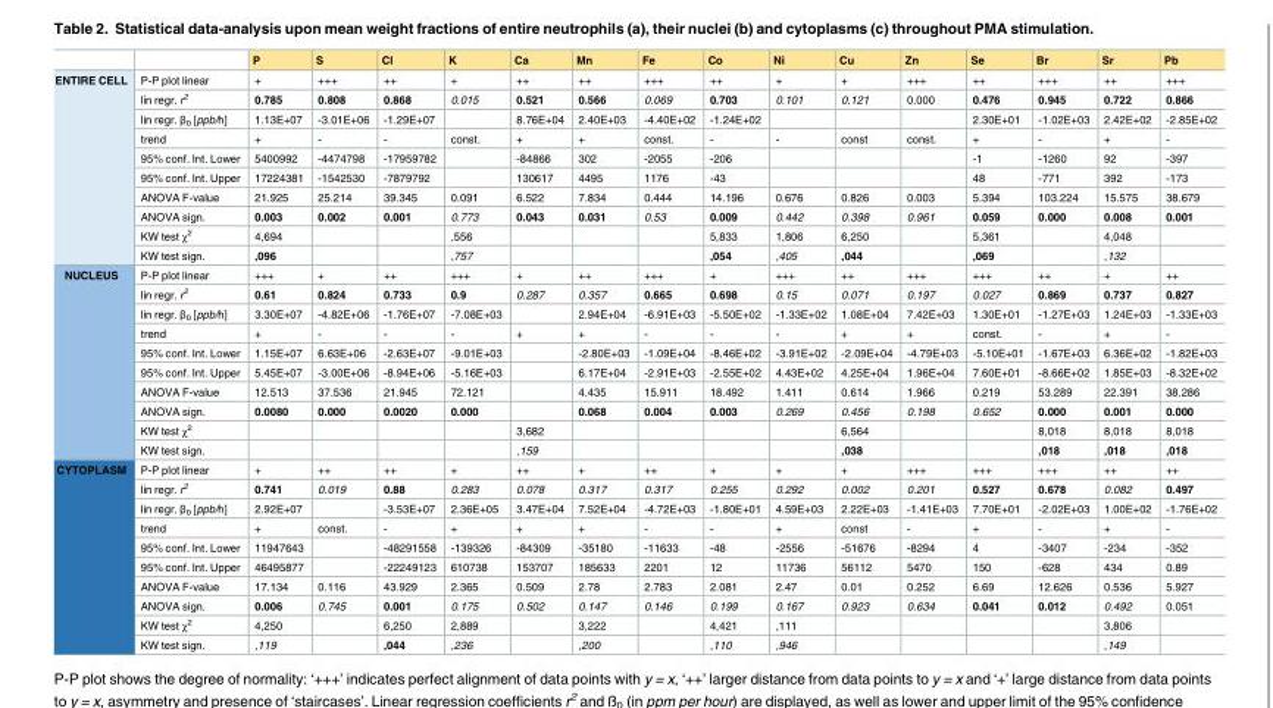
<table><thead><tr><td></td><td></td><td>P</td><td>S</td><td>Cl</td><td>K</td><td>Ca</td><td>Mn</td><td>Fe</td><td>Co</td><td>Ni</td><td>Cu</td><td>Zn</td><td>Se</td><td>Br</td><td>Sr</td><td>Pb</td></tr></thead><tbody><tr><td rowspan="10">ENTIRE CELL</td><td>P-P plot linear</td><td>+</td><td>+++</td><td>++</td><td>+</td><td>++</td><td>++</td><td>+++</td><td>++</td><td>+</td><td>+</td><td>+++</td><td>++</td><td>+++</td><td>++</td><td>+++</td></tr><tr><td>lin regr. r<sup>2</sup></td><td>0.785</td><td>0.808</td><td>0.868</td><td>0.015</td><td>0.521</td><td>0.566</td><td>0.069</td><td>0.703</td><td>0.101</td><td>0.121</td><td>0.000</td><td>0.476</td><td>0.945</td><td>0.722</td><td>0.866</td></tr><tr><td>lin regr. β<sub>0</sub> [ppb/h]</td><td>1.13E+07</td><td>-3.01E+06</td><td>-1.29E+07</td><td></td><td>8.76E+04</td><td>2.40E+03</td><td>-4.40E+02</td><td>-1.24E+02</td><td></td><td></td><td></td><td>2.30E+01</td><td>-1.02E+03</td><td>2.42E+02</td><td>-2.85E+02</td></tr><tr><td>trend</td><td>+</td><td>-</td><td>-</td><td>const.</td><td>+</td><td>+</td><td>const.</td><td>-</td><td>-</td><td>const</td><td>const.</td><td>+</td><td>-</td><td>+</td><td>-</td></tr><tr><td>95% conf. Int. Lower</td><td>5400992</td><td>-4474798</td><td>-17959782</td><td></td><td>-84866</td><td>302</td><td>-2055</td><td>-206</td><td></td><td></td><td></td><td>-1</td><td>-1260</td><td>92</td><td>-397</td></tr><tr><td>95% conf. Int. Upper</td><td>17224381</td><td>-1542530</td><td>-7879792</td><td></td><td>130617</td><td>4495</td><td>1176</td><td>-43</td><td></td><td></td><td></td><td>48</td><td>-771</td><td>392</td><td>-173</td></tr><tr><td>ANOVA F-value</td><td>21.925</td><td>25.214</td><td>39.345</td><td>0.091</td><td>6.522</td><td>7.834</td><td>0.444</td><td>14.196</td><td>0.676</td><td>0.826</td><td>0.003</td><td>5.394</td><td>103.224</td><td>15.575</td><td>38.679</td></tr><tr><td>ANOVA sign.</td><td>0.003</td><td>0.002</td><td>0.001</td><td>0.773</td><td>0.043</td><td>0.031</td><td>0.53</td><td>0.009</td><td>0.442</td><td>0.398</td><td>0.961</td><td>0.059</td><td>0.000</td><td>0.008</td><td>0.001</td></tr><tr><td>KW test χ<sup>2</sup></td><td>4,694</td><td></td><td></td><td>,556</td><td></td><td></td><td></td><td>5,833</td><td>1,806</td><td>6,250</td><td></td><td>5,361</td><td></td><td>4,048</td><td></td></tr><tr><td>KW test sign.</td><td>,096</td><td></td><td></td><td>,757</td><td></td><td></td><td></td><td>,054</td><td>,405</td><td>,044</td><td></td><td>,069</td><td></td><td>,132</td><td></td></tr><tr><td rowspan="10">NUCLEUS</td><td>P-P plot linear</td><td>+++</td><td>+</td><td>++</td><td>+++</td><td>+</td><td>++</td><td>+++</td><td>+</td><td>+++</td><td>++</td><td>+++</td><td>+++</td><td>++</td><td>+</td><td>++</td></tr><tr><td>lin regr. r<sup>2</sup></td><td>0.61</td><td>0.824</td><td>0.733</td><td>0.9</td><td>0.287</td><td>0.357</td><td>0.665</td><td>0.698</td><td>0.15</td><td>0.071</td><td>0.197</td><td>0.027</td><td>0.869</td><td>0.737</td><td>0.827</td></tr><tr><td>lin regr. β<sub>0</sub> [ppb/h]</td><td>3.30E+07</td><td>-4.82E+06</td><td>-1.76E+07</td><td>-7.08E+03</td><td></td><td>2.94E+04</td><td>-6.91E+03</td><td>-5.50E+02</td><td>-1.33E+02</td><td>1.08E+04</td><td>7.42E+03</td><td>1.30E+01</td><td>-1.27E+03</td><td>1.24E+03</td><td>-1.33E+03</td></tr><tr><td>trend</td><td>+</td><td>-</td><td>-</td><td>-</td><td>+</td><td>+</td><td>-</td><td>-</td><td>-</td><td>+</td><td>+</td><td>const.</td><td>-</td><td>+</td><td>-</td></tr><tr><td>95% conf. Int. Lower</td><td>1.15E+07</td><td>6.63E+06</td><td>-2.63E+07</td><td>-9.01E+03</td><td></td><td>-2.80E+03</td><td>-1.09E+04</td><td>-8.46E+02</td><td>-3.91E+02</td><td>-2.09E+04</td><td>-4.79E+03</td><td>-5.10E+01</td><td>-1.67E+03</td><td>6.36E+02</td><td>-1.82E+03</td></tr><tr><td>95% conf. Int. Upper</td><td>5.45E+07</td><td>-3.00E+06</td><td>-8.94E+06</td><td>-5.16E+03</td><td></td><td>6.17E+04</td><td>-2.91E+03</td><td>-2.55E+02</td><td>4.43E+02</td><td>4.25E+04</td><td>1.96E+04</td><td>7.60E+01</td><td>-8.66E+02</td><td>1.85E+03</td><td>-8.32E+02</td></tr><tr><td>ANOVA F-value</td><td>12.513</td><td>37.536</td><td>21.945</td><td>72.121</td><td></td><td>4.435</td><td>15.911</td><td>18.492</td><td>1.411</td><td>0.614</td><td>1.966</td><td>0.219</td><td>53.289</td><td>22.391</td><td>38.286</td></tr><tr><td>ANOVA sign.</td><td>0.0080</td><td>0.000</td><td>0.0020</td><td>0.000</td><td></td><td>0.068</td><td>0.004</td><td>0.003</td><td>0.269</td><td>0.456</td><td>0.198</td><td>0.652</td><td>0.000</td><td>0.001</td><td>0.000</td></tr><tr><td>KW test χ<sup>2</sup></td><td></td><td></td><td></td><td></td><td>3,682</td><td></td><td></td><td></td><td></td><td>6,564</td><td></td><td></td><td>8,018</td><td>8,018</td><td>8,018</td></tr><tr><td>KW test sign.</td><td></td><td></td><td></td><td></td><td>,159</td><td></td><td></td><td></td><td></td><td>,038</td><td></td><td></td><td>,018</td><td>,018</td><td>,018</td></tr><tr><td rowspan="10">CYTOPLASM</td><td>P-P plot linear</td><td>+</td><td>++</td><td>++</td><td>+</td><td>++</td><td>+</td><td>++</td><td>+</td><td>+</td><td>+</td><td>+++</td><td>+++</td><td>+++</td><td>++</td><td>++</td></tr><tr><td>lin regr. r<sup>2</sup></td><td>0.741</td><td>0.019</td><td>0.88</td><td>0.283</td><td>0.078</td><td>0.317</td><td>0.317</td><td>0.255</td><td>0.292</td><td>0.002</td><td>0.201</td><td>0.527</td><td>0.678</td><td>0.082</td><td>0.497</td></tr><tr><td>lin regr. β<sub>0</sub> [ppb/h]</td><td>2.92E+07</td><td></td><td>-3.53E+07</td><td>2.36E+05</td><td>3.47E+04</td><td>7.52E+04</td><td>-4.72E+03</td><td>-1.80E+01</td><td>4.59E+03</td><td>2.22E+03</td><td>-1.41E+03</td><td>7.70E+01</td><td>-2.02E+03</td><td>1.00E+02</td><td>-1.76E+02</td></tr><tr><td>trend</td><td>+</td><td>const.</td><td>-</td><td>+</td><td>+</td><td>+</td><td>-</td><td>-</td><td>+</td><td>const</td><td>-</td><td>+</td><td>-</td><td>+</td><td>-</td></tr><tr><td>95% conf. Int. Lower</td><td>11947643</td><td></td><td>-48291558</td><td>-139326</td><td>-84309</td><td>-35180</td><td>-11633</td><td>-48</td><td>-2556</td><td>-51676</td><td>-8294</td><td>4</td><td>-3407</td><td>-234</td><td>-352</td></tr><tr><td>95% conf. Int. Upper</td><td>46495877</td><td></td><td>-22249123</td><td>610738</td><td>153707</td><td>185633</td><td>2201</td><td>12</td><td>11736</td><td>56112</td><td>5470</td><td>150</td><td>-628</td><td>434</td><td>0.89</td></tr><tr><td>ANOVA F-value</td><td>17.134</td><td>0.116</td><td>43.929</td><td>2.365</td><td>0.509</td><td>2.78</td><td>2.783</td><td>2.081</td><td>2.47</td><td>0.01</td><td>0.252</td><td>6.69</td><td>12.626</td><td>0.536</td><td>5.927</td></tr><tr><td>ANOVA sign.</td><td>0.006</td><td>0.745</td><td>0.001</td><td>0.175</td><td>0.502</td><td>0.147</td><td>0.146</td><td>0.199</td><td>0.167</td><td>0.923</td><td>0.634</td><td>0.041</td><td>0.012</td><td>0.492</td><td>0.051</td></tr><tr><td>KW test χ<sup>2</sup></td><td>4,250</td><td></td><td>6,250</td><td>2,889</td><td></td><td>3,222</td><td></td><td>4,421</td><td>,111</td><td></td><td></td><td></td><td></td><td>3,806</td><td></td></tr><tr><td>KW test sign.</td><td>,119</td><td></td><td>,044</td><td>,236</td><td></td><td>,200</td><td></td><td>,110</td><td>,946</td><td></td><td></td><td></td><td></td><td>,149</td><td></td></tr></tbody></table>